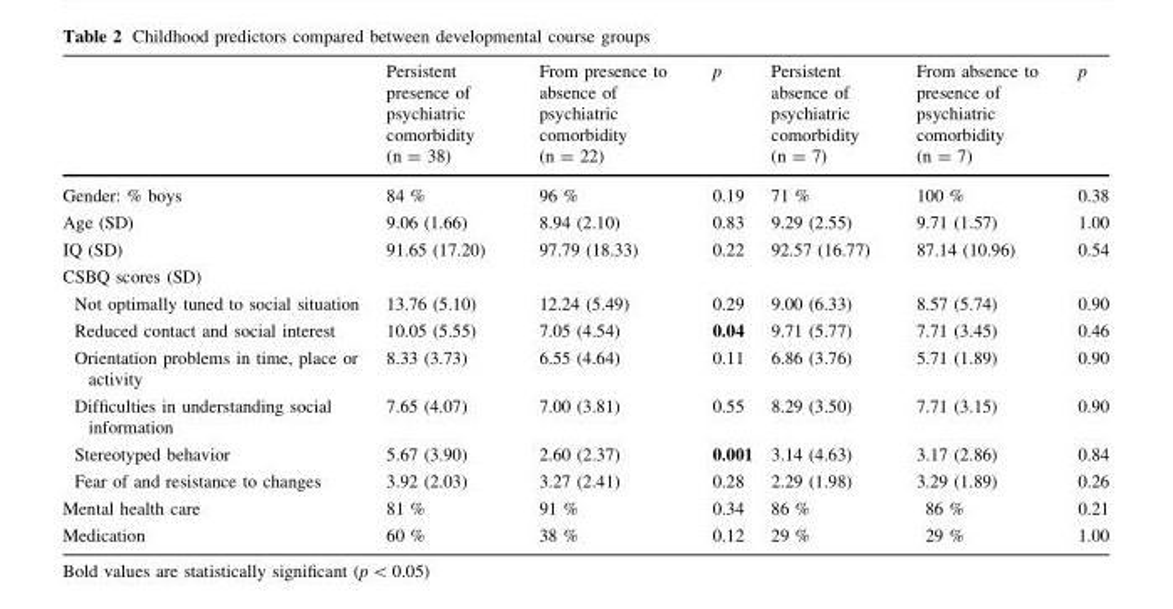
<table><thead><tr><td></td><td>Persistent presence of psychiatric comorbidity (n = 38)</td><td>From presence to absence of psychiatric comorbidity (n = 22)</td><td>p</td><td>Persistent absence of psychiatric comorbidity (n = 7)</td><td>From absence to presence of psychiatric comorbidity (n = 7)</td><td>p</td></tr></thead><tbody><tr><td>Gender: % boys</td><td>84 %</td><td>96 %</td><td>0.19</td><td>71 %</td><td>100 %</td><td>0.38</td></tr><tr><td>Age (SD)</td><td>9.06 (1.66)</td><td>8.94 (2.10)</td><td>0.83</td><td>9.29 (2.55)</td><td>9.71 (1.57)</td><td>1.00</td></tr><tr><td>IQ (SD)</td><td>91.65 (17.20)</td><td>97.79 (18.33)</td><td>0.22</td><td>92.57 (16.77)</td><td>87.14 (10.96)</td><td>0.54</td></tr><tr><td colspan="7">CSBQ scores (SD)</td></tr><tr><td>Not optimally tuned to social situation</td><td>13.76 (5.10)</td><td>12.24 (5.49)</td><td>0.29</td><td>9.00 (6.33)</td><td>8.57 (5.74)</td><td>0.90</td></tr><tr><td>Reduced contact and social interest</td><td>10.05 (5.55)</td><td>7.05 (4.54)</td><td>0.04</td><td>9.71 (5.77)</td><td>7.71 (3.45)</td><td>0.46</td></tr><tr><td>Orientation problems in time, place or activity</td><td>8.33 (3.73)</td><td>6.55 (4.64)</td><td>0.11</td><td>6.86 (3.76)</td><td>5.71 (1.89)</td><td>0.90</td></tr><tr><td>Difficulties in understanding social information</td><td>7.65 (4.07)</td><td>7.00 (3.81)</td><td>0.55</td><td>8.29 (3.50)</td><td>7.71 (3.15)</td><td>0.90</td></tr><tr><td>Stereotyped behavior</td><td>5.67 (3.90)</td><td>2.60 (2.37)</td><td>0.001</td><td>3.14 (4.63)</td><td>3.17 (2.86)</td><td>0.84</td></tr><tr><td>Fear of and resistance to changes</td><td>3.92 (2.03)</td><td>3.27 (2.41)</td><td>0.28</td><td>2.29 (1.98)</td><td>3.29 (1.89)</td><td>0.26</td></tr><tr><td>Mental health care</td><td>81 %</td><td>91 %</td><td>0.34</td><td>86 %</td><td>86 %</td><td>0.21</td></tr><tr><td>Medication</td><td>60 %</td><td>38 %</td><td>0.12</td><td>29 %</td><td>29 %</td><td>1.00</td></tr></tbody></table>